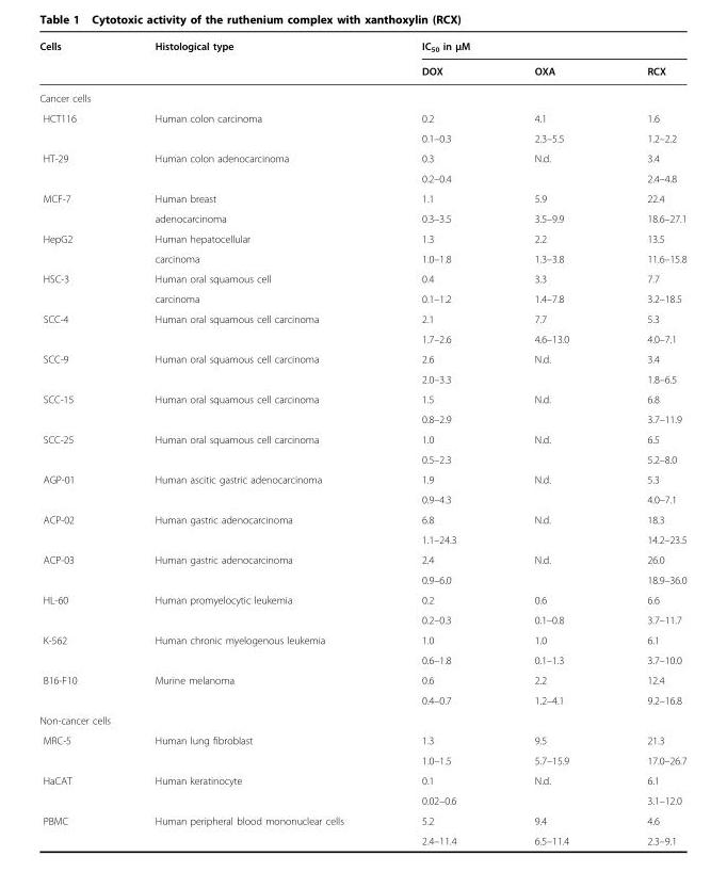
<table><thead><tr><td rowspan="2">Cells</td><td rowspan="2">Histological type</td><td colspan="3">IC<sub>50</sub> in µM</td></tr><tr><td>DOX</td><td>OXA</td><td>RCX</td></tr></thead><tbody><tr><td colspan="5">Cancer cells</td></tr><tr><td rowspan="2">HCT116</td><td>Human colon carcinoma</td><td>0.2</td><td>4.1</td><td>1.6</td></tr><tr><td></td><td>0.1–0.3</td><td>2.3–5.5</td><td>1.2–2.2</td></tr><tr><td rowspan="2">HT-29</td><td>Human colon adenocarcinoma</td><td>0.3</td><td>N.d.</td><td>3.4</td></tr><tr><td></td><td>0.2–0.4</td><td></td><td>2.4–4.8</td></tr><tr><td rowspan="2">MCF-7</td><td>Human breast</td><td>1.1</td><td>5.9</td><td>22.4</td></tr><tr><td>adenocarcinoma</td><td>0.3–3.5</td><td>3.5–9.9</td><td>18.6–27.1</td></tr><tr><td rowspan="2">HepG2</td><td>Human hepatocellular</td><td>1.3</td><td>2.2</td><td>13.5</td></tr><tr><td>carcinoma</td><td>1.0–1.8</td><td>1.3–3.8</td><td>11.6–15.8</td></tr><tr><td rowspan="2">HSC-3</td><td>Human oral squamous cell</td><td>0.4</td><td>3.3</td><td>7.7</td></tr><tr><td>carcinoma</td><td>0.1–1.2</td><td>1.4–7.8</td><td>3.2–18.5</td></tr><tr><td rowspan="2">SCC-4</td><td>Human oral squamous cell carcinoma</td><td>2.1</td><td>7.7</td><td>5.3</td></tr><tr><td></td><td>1.7–2.6</td><td>4.6–13.0</td><td>4.0–7.1</td></tr><tr><td rowspan="2">SCC-9</td><td>Human oral squamous cell carcinoma</td><td>2.6</td><td>N.d.</td><td>3.4</td></tr><tr><td></td><td>2.0–3.3</td><td></td><td>1.8–6.5</td></tr><tr><td rowspan="2">SCC-15</td><td>Human oral squamous cell carcinoma</td><td>1.5</td><td>N.d.</td><td>6.8</td></tr><tr><td></td><td>0.8–2.9</td><td></td><td>3.7–11.9</td></tr><tr><td rowspan="2">SCC-25</td><td>Human oral squamous cell carcinoma</td><td>1.0</td><td>N.d.</td><td>6.5</td></tr><tr><td></td><td>0.5–2.3</td><td></td><td>5.2–8.0</td></tr><tr><td rowspan="2">AGP-01</td><td>Human ascitic gastric adenocarcinoma</td><td>1.9</td><td>N.d.</td><td>5.3</td></tr><tr><td></td><td>0.9–4.3</td><td></td><td>4.0–7.1</td></tr><tr><td rowspan="2">ACP-02</td><td>Human gastric adenocarcinoma</td><td>6.8</td><td>N.d.</td><td>18.3</td></tr><tr><td></td><td>1.1–24.3</td><td></td><td>14.2–23.5</td></tr><tr><td rowspan="2">ACP-03</td><td>Human gastric adenocarcinoma</td><td>2.4</td><td>N.d.</td><td>26.0</td></tr><tr><td></td><td>0.9–6.0</td><td></td><td>18.9–36.0</td></tr><tr><td rowspan="2">HL-60</td><td>Human promyelocytic leukemia</td><td>0.2</td><td>0.6</td><td>6.6</td></tr><tr><td></td><td>0.2–0.3</td><td>0.1–0.8</td><td>3.7–11.7</td></tr><tr><td rowspan="2">K-562</td><td>Human chronic myelogenous leukemia</td><td>1.0</td><td>1.0</td><td>6.1</td></tr><tr><td></td><td>0.6–1.8</td><td>0.1–1.3</td><td>3.7–10.0</td></tr><tr><td rowspan="2">B16-F10</td><td>Murine melanoma</td><td>0.6</td><td>2.2</td><td>12.4</td></tr><tr><td></td><td>0.4–0.7</td><td>1.2–4.1</td><td>9.2–16.8</td></tr><tr><td colspan="5">Non-cancer cells</td></tr><tr><td rowspan="2">MRC-5</td><td>Human lung fibroblast</td><td>1.3</td><td>9.5</td><td>21.3</td></tr><tr><td></td><td>1.0–1.5</td><td>5.7–15.9</td><td>17.0–26.7</td></tr><tr><td rowspan="2">HaCAT</td><td>Human keratinocyte</td><td>0.1</td><td>N.d.</td><td>6.1</td></tr><tr><td></td><td>0.02–0.6</td><td></td><td>3.1–12.0</td></tr><tr><td rowspan="2">PBMC</td><td>Human peripheral blood mononuclear cells</td><td>5.2</td><td>9.4</td><td>4.6</td></tr><tr><td></td><td>2.4–11.4</td><td>6.5–11.4</td><td>2.3–9.1</td></tr></tbody></table>